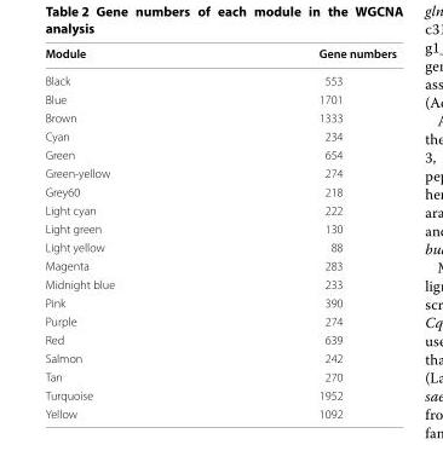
<table><thead><tr><td>Module</td><td>Gene numbers</td></tr></thead><tbody><tr><td>Black</td><td>553</td></tr><tr><td>Blue</td><td>1701</td></tr><tr><td>Brown</td><td>1333</td></tr><tr><td>Cyan</td><td>234</td></tr><tr><td>Green</td><td>654</td></tr><tr><td>Green-yellow</td><td>274</td></tr><tr><td>Grey60</td><td>218</td></tr><tr><td>Light cyan</td><td>222</td></tr><tr><td>Light green</td><td>130</td></tr><tr><td>Light yellow</td><td>88</td></tr><tr><td>Magenta</td><td>283</td></tr><tr><td>Midnight blue</td><td>233</td></tr><tr><td>Pink</td><td>390</td></tr><tr><td>Purple</td><td>274</td></tr><tr><td>Red</td><td>639</td></tr><tr><td>Salmon</td><td>242</td></tr><tr><td>Tan</td><td>270</td></tr><tr><td>Turquoise</td><td>1952</td></tr><tr><td>Yellow</td><td>1092</td></tr></tbody></table>